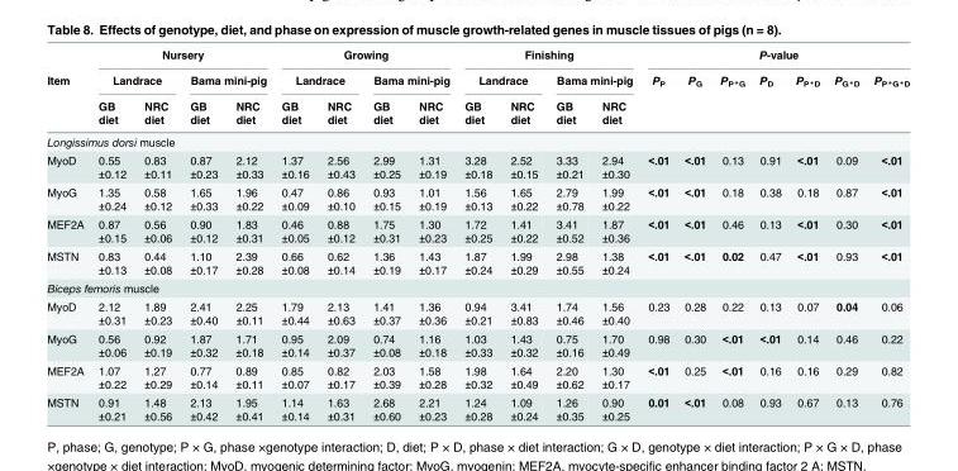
<table><thead><tr><td rowspan="3">Item</td><td colspan="4">Nursery</td><td colspan="4">Growing</td><td colspan="4">Finishing</td><td colspan="7">P-value</td></tr><tr><td colspan="2">Landrace</td><td colspan="2">Bama mini-pig</td><td colspan="2">Landrace</td><td colspan="2">Bama mini-pig</td><td colspan="2">Landrace</td><td colspan="2">Bama mini-pig</td><td rowspan="2">P<sub>P</sub></td><td rowspan="2">P<sub>G</sub></td><td rowspan="2">P<sub>P*G</sub></td><td rowspan="2">P<sub>D</sub></td><td rowspan="2">P<sub>P*D</sub></td><td rowspan="2">P<sub>G*D</sub></td><td rowspan="2">P<sub>P*G*D</sub></td></tr><tr><td>GB diet</td><td>NRC diet</td><td>GB diet</td><td>NRC diet</td><td>GB diet</td><td>NRC diet</td><td>GB diet</td><td>NRC diet</td><td>GB diet</td><td>NRC diet</td><td>GB diet</td><td>NRC diet</td></tr></thead><tbody><tr><td colspan="20">Longissimus dorsi muscle</td></tr><tr><td>MyoD</td><td>0.55 ±0.12</td><td>0.83 ±0.11</td><td>0.87 ±0.23</td><td>2.12 ±0.33</td><td>1.37 ±0.16</td><td>2.56 ±0.43</td><td>2.99 ±0.25</td><td>1.31 ±0.19</td><td>3.28 ±0.18</td><td>2.52 ±0.15</td><td>3.33 ±0.21</td><td>2.94 ±0.30</td><td>&lt;.01</td><td>&lt;.01</td><td>0.13</td><td>0.91</td><td>&lt;.01</td><td>0.09</td><td>&lt;.01</td></tr><tr><td>MyoG</td><td>1.35 ±0.24</td><td>0.58 ±0.12</td><td>1.65 ±0.33</td><td>1.96 ±0.22</td><td>0.47 ±0.09</td><td>0.86 ±0.10</td><td>0.93 ±0.15</td><td>1.01 ±0.19</td><td>1.56 ±0.13</td><td>1.65 ±0.22</td><td>2.79 ±0.78</td><td>1.99 ±0.22</td><td>&lt;.01</td><td>&lt;.01</td><td>0.18</td><td>0.38</td><td>0.18</td><td>0.87</td><td>&lt;.01</td></tr><tr><td>MEF2A</td><td>0.87 ±0.15</td><td>0.56 ±0.06</td><td>0.90 ±0.12</td><td>1.83 ±0.31</td><td>0.46 ±0.05</td><td>0.88 ±0.12</td><td>1.75 ±0.31</td><td>1.30 ±0.23</td><td>1.72 ±0.25</td><td>1.41 ±0.22</td><td>3.41 ±0.52</td><td>1.87 ±0.36</td><td>&lt;.01</td><td>&lt;.01</td><td>0.46</td><td>0.13</td><td>&lt;.01</td><td>0.30</td><td>&lt;.01</td></tr><tr><td>MSTN</td><td>0.83 ±0.13</td><td>0.44 ±0.08</td><td>1.10 ±0.17</td><td>2.39 ±0.28</td><td>0.66 ±0.08</td><td>0.62 ±0.14</td><td>1.36 ±0.19</td><td>1.43 ±0.17</td><td>1.87 ±0.24</td><td>1.99 ±0.29</td><td>2.98 ±0.55</td><td>1.38 ±0.24</td><td>&lt;.01</td><td>&lt;.01</td><td>0.02</td><td>0.47</td><td>&lt;.01</td><td>0.93</td><td>&lt;.01</td></tr><tr><td colspan="20">Biceps femoris muscle</td></tr><tr><td>MyoD</td><td>2.12 ±0.31</td><td>1.89 ±0.23</td><td>2.41 ±0.40</td><td>2.25 ±0.11</td><td>1.79 ±0.44</td><td>2.13 ±0.63</td><td>1.41 ±0.37</td><td>1.36 ±0.36</td><td>0.94 ±0.21</td><td>3.41 ±0.83</td><td>1.74 ±0.46</td><td>1.56 ±0.40</td><td>0.23</td><td>0.28</td><td>0.22</td><td>0.13</td><td>0.07</td><td>0.04</td><td>0.06</td></tr><tr><td>MyoG</td><td>0.56 ±0.06</td><td>0.92 ±0.19</td><td>1.87 ±0.32</td><td>1.71 ±0.18</td><td>0.95 ±0.14</td><td>2.09 ±0.37</td><td>0.74 ±0.08</td><td>1.16 ±0.18</td><td>1.03 ±0.33</td><td>1.43 ±0.32</td><td>0.75 ±0.16</td><td>1.70 ±0.49</td><td>0.98</td><td>0.30</td><td>&lt;.01</td><td>&lt;.01</td><td>0.14</td><td>0.46</td><td>0.22</td></tr><tr><td>MEF2A</td><td>1.07 ±0.22</td><td>1.27 ±0.29</td><td>0.77 ±0.14</td><td>0.89 ±0.11</td><td>0.85 ±0.07</td><td>0.82 ±0.17</td><td>2.03 ±0.39</td><td>1.58 ±0.28</td><td>1.98 ±0.32</td><td>1.64 ±0.49</td><td>2.20 ±0.62</td><td>1.30 ±0.17</td><td>&lt;.01</td><td>0.25</td><td>&lt;.01</td><td>0.16</td><td>0.16</td><td>0.29</td><td>0.82</td></tr><tr><td>MSTN</td><td>0.91 ±0.21</td><td>1.48 ±0.56</td><td>2.13 ±0.42</td><td>1.95 ±0.41</td><td>1.14 ±0.14</td><td>1.63 ±0.31</td><td>2.68 ±0.60</td><td>2.21 ±0.23</td><td>1.24 ±0.28</td><td>1.09 ±0.24</td><td>1.26 ±0.35</td><td>0.90 ±0.25</td><td>0.01</td><td>&lt;.01</td><td>0.08</td><td>0.93</td><td>0.67</td><td>0.13</td><td>0.76</td></tr></tbody></table>